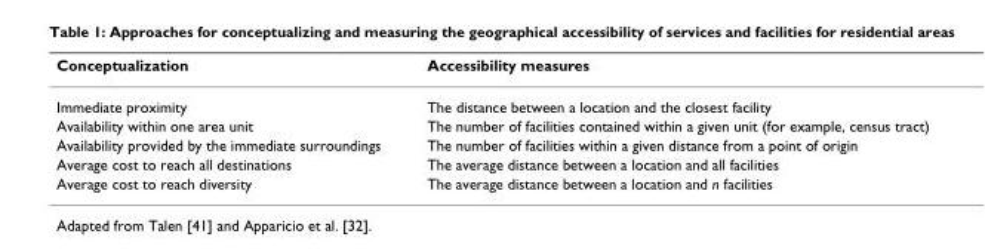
<table><thead><tr><td>Conceptualization</td><td>Accessibility measures</td></tr></thead><tbody><tr><td>Immediate proximity</td><td>The distance between a location and the closest facility</td></tr><tr><td>Availability within one area unit</td><td>The number of facilities contained within a given unit (for example, census tract)</td></tr><tr><td>Availability provided by the immediate surroundings</td><td>The number of facilities within a given distance from a point of origin</td></tr><tr><td>Average cost to reach all destinations</td><td>The average distance between a location and all facilities</td></tr><tr><td>Average cost to reach diversity</td><td>The average distance between a location and n facilities</td></tr></tbody></table>